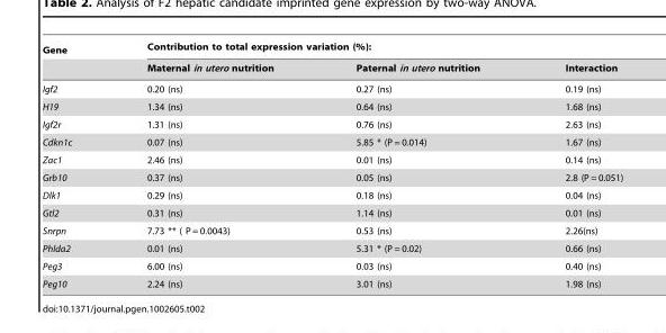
<table><thead><tr><td rowspan="2">Gene</td><td colspan="3">Contribution to total expression variation (%):</td></tr><tr><td>Maternal in utero nutrition</td><td>Paternal in utero nutrition</td><td>Interaction</td></tr></thead><tbody><tr><td>Igf2</td><td>0.20 (ns)</td><td>0.27 (ns)</td><td>0.19 (ns)</td></tr><tr><td>H19</td><td>1.34 (ns)</td><td>0.64 (ns)</td><td>1.68 (ns)</td></tr><tr><td>Igf2r</td><td>1.31 (ns)</td><td>0.76 (ns)</td><td>2.63 (ns)</td></tr><tr><td>Cdkn1c</td><td>0.07 (ns)</td><td>5.85 * (P = 0.014)</td><td>1.67 (ns)</td></tr><tr><td>Zac1</td><td>2.46 (ns)</td><td>0.01 (ns)</td><td>0.14 (ns)</td></tr><tr><td>Grb10</td><td>0.37 (ns)</td><td>0.05 (ns)</td><td>2.8 (P = 0.051)</td></tr><tr><td>Dlk1</td><td>0.29 (ns)</td><td>0.18 (ns)</td><td>0.04 (ns)</td></tr><tr><td>Gtl2</td><td>0.31 (ns)</td><td>1.14 (ns)</td><td>0.01 (ns)</td></tr><tr><td>Snrpn</td><td>7.73 ** ( P = 0.0043)</td><td>0.53 (ns)</td><td>2.26(ns)</td></tr><tr><td>Phlda2</td><td>0.01 (ns)</td><td>5.31 * (P = 0.02)</td><td>0.66 (ns)</td></tr><tr><td>Peg3</td><td>6.00 (ns)</td><td>0.03 (ns)</td><td>0.40 (ns)</td></tr><tr><td>Peg10</td><td>2.24 (ns)</td><td>3.01 (ns)</td><td>1.98 (ns)</td></tr></tbody></table>